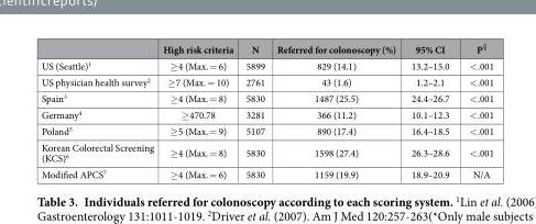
<table><thead><tr><td></td><td>High risk criteria</td><td>N</td><td>Referred for colonoscopy (%)</td><td>95% CI</td><td>P<sup>§</sup></td></tr></thead><tbody><tr><td>US (Seattle)<sup>1</sup></td><td>≥ 4 (Max. = 6)</td><td>5899</td><td>829 (14.1)</td><td>13.2–15.0</td><td>&lt; .001</td></tr><tr><td>US physician health survey<sup>2</sup></td><td>≥ 7 (Max. = 10)</td><td>2761</td><td>43 (1.6)</td><td>1.2–2.1</td><td>&lt; .001</td></tr><tr><td>Spain<sup>3</sup></td><td>≥ 4 (Max. = 8)</td><td>5830</td><td>1487 (25.5)</td><td>24.4–26.7</td><td>&lt; .001</td></tr><tr><td>Germany<sup>4</sup></td><td>≥ 470.78</td><td>3281</td><td>366 (11.2)</td><td>10.1–12.3</td><td>&lt; .001</td></tr><tr><td>Poland<sup>5</sup></td><td>≥ 5 (Max. = 9)</td><td>5107</td><td>890 (17.4)</td><td>16.4–18.5</td><td>&lt; .001</td></tr><tr><td>Korean Colorectal Screening (KCS)<sup>6</sup></td><td>≥ 4 (Max. = 8)</td><td>5830</td><td>1598 (27.4)</td><td>26.3–28.6</td><td>&lt; .001</td></tr><tr><td>Modified APCS<sup>7</sup></td><td>≥ 4 (Max. = 6)</td><td>5830</td><td>1159 (19.9)</td><td>18.9–20.9</td><td>N/A</td></tr></tbody></table>